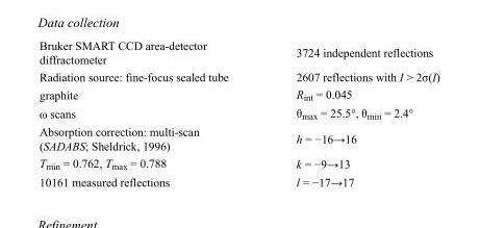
<table><tbody><tr><td>Bruker SMART CCD area-detector diffractometer</td><td>3724 independent reflections</td></tr><tr><td>Radiation source: fine-focus sealed tube</td><td>2607 reflections with I &gt; 2σ(I)</td></tr><tr><td>graphite</td><td>R<sub>int</sub> = 0.045</td></tr><tr><td>ω scans</td><td>θ<sub>max</sub> = 25.5°, θ<sub>min</sub> = 2.4°</td></tr><tr><td>Absorption correction: multi-scan (SADABS; Sheldrick, 1996)</td><td>h = −16→16</td></tr><tr><td>T<sub>min</sub> = 0.762, T<sub>max</sub> = 0.788</td><td>k = −9→13</td></tr><tr><td>10161 measured reflections</td><td>l = −17→17</td></tr></tbody></table>